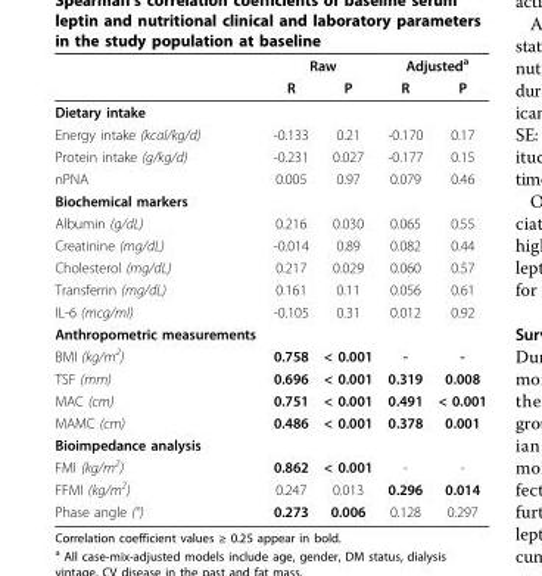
<table><thead><tr><td rowspan="2"></td><td colspan="2">Raw</td><td colspan="2">Adjusted<sup>a</sup></td></tr><tr><td>R</td><td>P</td><td>R</td><td>P</td></tr></thead><tbody><tr><td colspan="5">Dietary intake</td></tr><tr><td>Energy intake (kcal/kg/d)</td><td>-0.133</td><td>0.21</td><td>-0.170</td><td>0.17</td></tr><tr><td>Protein intake (g/kg/d)</td><td>-0.231</td><td>0.027</td><td>-0.177</td><td>0.15</td></tr><tr><td>nPNA</td><td>0.005</td><td>0.97</td><td>0.079</td><td>0.46</td></tr><tr><td colspan="5">Biochemical markers</td></tr><tr><td>Albumin (g/dL)</td><td>0.216</td><td>0.030</td><td>0.065</td><td>0.55</td></tr><tr><td>Creatinine (mg/dL)</td><td>-0.014</td><td>0.89</td><td>0.082</td><td>0.44</td></tr><tr><td>Cholesterol (mg/dL)</td><td>0.217</td><td>0.029</td><td>0.060</td><td>0.57</td></tr><tr><td>Transferrin (mg/dL)</td><td>0.161</td><td>0.11</td><td>0.056</td><td>0.61</td></tr><tr><td>IL-6 (mcg/ml)</td><td>-0.105</td><td>0.31</td><td>0.012</td><td>0.92</td></tr><tr><td colspan="5">Anthropometric measurements</td></tr><tr><td>BMI (kg/m<sup>2</sup>)</td><td>0.758</td><td>&lt; 0.001</td><td>-</td><td>-</td></tr><tr><td>TSF (mm)</td><td>0.696</td><td>&lt; 0.001</td><td>0.319</td><td>0.008</td></tr><tr><td>MAC (cm)</td><td>0.751</td><td>&lt; 0.001</td><td>0.491</td><td>&lt; 0.001</td></tr><tr><td>MAMC (cm)</td><td>0.486</td><td>&lt; 0.001</td><td>0.378</td><td>0.001</td></tr><tr><td colspan="5">Bioimpedance analysis</td></tr><tr><td>FMI (kg/m<sup>2</sup>)</td><td>0.862</td><td>&lt; 0.001</td><td>-</td><td>-</td></tr><tr><td>FFMI (kg/m<sup>2</sup>)</td><td>0.247</td><td>0.013</td><td>0.296</td><td>0.014</td></tr><tr><td>Phase angle (°)</td><td>0.273</td><td>0.006</td><td>0.128</td><td>0.297</td></tr></tbody></table>